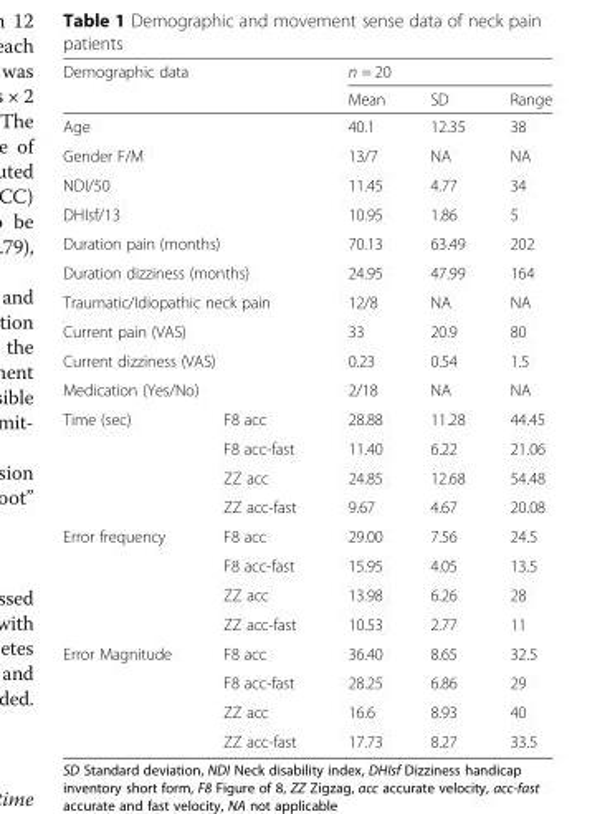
<table><thead><tr><td rowspan="2" colspan="2">Demographic data</td><td colspan="3">n = 20</td></tr><tr><td>Mean</td><td>SD</td><td>Range</td></tr></thead><tbody><tr><td colspan="2">Age</td><td>40.1</td><td>12.35</td><td>38</td></tr><tr><td colspan="2">Gender F/M</td><td>13/7</td><td>NA</td><td>NA</td></tr><tr><td colspan="2">NDI/50</td><td>11.45</td><td>4.77</td><td>34</td></tr><tr><td colspan="2">DHIsf/13</td><td>10.95</td><td>1.86</td><td>5</td></tr><tr><td colspan="2">Duration pain (months)</td><td>70.13</td><td>63.49</td><td>202</td></tr><tr><td colspan="2">Duration dizziness (months)</td><td>24.95</td><td>47.99</td><td>164</td></tr><tr><td colspan="2">Traumatic/Idiopathic neck pain</td><td>12/8</td><td>NA</td><td>NA</td></tr><tr><td colspan="2">Current pain (VAS)</td><td>33</td><td>20.9</td><td>80</td></tr><tr><td colspan="2">Current dizziness (VAS)</td><td>0.23</td><td>0.54</td><td>1.5</td></tr><tr><td colspan="2">Medication (Yes/No)</td><td>2/18</td><td>NA</td><td>NA</td></tr><tr><td rowspan="4">Time (sec)</td><td>F8 acc</td><td>28.88</td><td>11.28</td><td>44.45</td></tr><tr><td>F8 acc-fast</td><td>11.40</td><td>6.22</td><td>21.06</td></tr><tr><td>ZZ acc</td><td>24.85</td><td>12.68</td><td>54.48</td></tr><tr><td>ZZ acc-fast</td><td>9.67</td><td>4.67</td><td>20.08</td></tr><tr><td rowspan="4">Error frequency</td><td>F8 acc</td><td>29.00</td><td>7.56</td><td>24.5</td></tr><tr><td>F8 acc-fast</td><td>15.95</td><td>4.05</td><td>13.5</td></tr><tr><td>ZZ acc</td><td>13.98</td><td>6.26</td><td>28</td></tr><tr><td>ZZ acc-fast</td><td>10.53</td><td>2.77</td><td>11</td></tr><tr><td rowspan="4">Error Magnitude</td><td>F8 acc</td><td>36.40</td><td>8.65</td><td>32.5</td></tr><tr><td>F8 acc-fast</td><td>28.25</td><td>6.86</td><td>29</td></tr><tr><td>ZZ acc</td><td>16.6</td><td>8.93</td><td>40</td></tr><tr><td>ZZ acc-fast</td><td>17.73</td><td>8.27</td><td>33.5</td></tr></tbody></table>